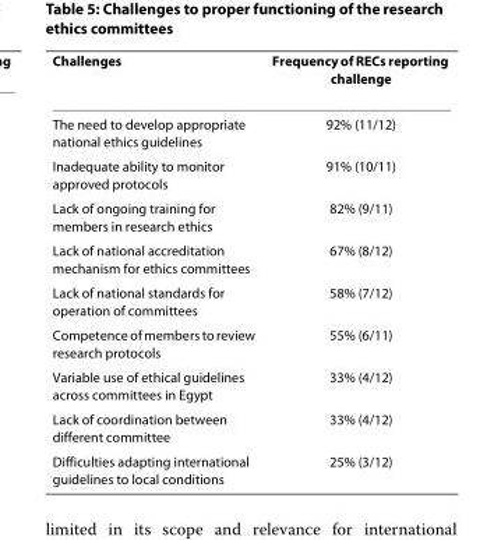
<table><thead><tr><td>Challenges</td><td>Frequency of RECs reporting challenge</td></tr></thead><tbody><tr><td>The need to develop appropriate national ethics guidelines</td><td>92% (11/12)</td></tr><tr><td>Inadequate ability to monitor approved protocols</td><td>91% (10/11)</td></tr><tr><td>Lack of ongoing training for members in research ethics</td><td>82% (9/11)</td></tr><tr><td>Lack of national accreditation mechanism for ethics committees</td><td>67% (8/12)</td></tr><tr><td>Lack of national standards for operation of committees</td><td>58% (7/12)</td></tr><tr><td>Competence of members to review research protocols</td><td>55% (6/11)</td></tr><tr><td>Variable use of ethical guidelines across committees in Egypt</td><td>33% (4/12)</td></tr><tr><td>Lack of coordination between different committee</td><td>33% (4/12)</td></tr><tr><td>Difficulties adapting international guidelines to local conditions</td><td>25% (3/12)</td></tr></tbody></table>